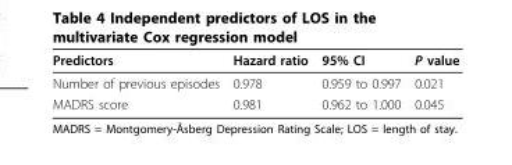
<table><thead><tr><td>Predictors</td><td>Hazard ratio</td><td>95% CI</td><td>P value</td></tr></thead><tbody><tr><td>Number of previous episodes</td><td>0.978</td><td>0.959 to 0.997</td><td>0.021</td></tr><tr><td>MADRS score</td><td>0.981</td><td>0.962 to 1.000</td><td>0.045</td></tr></tbody></table>